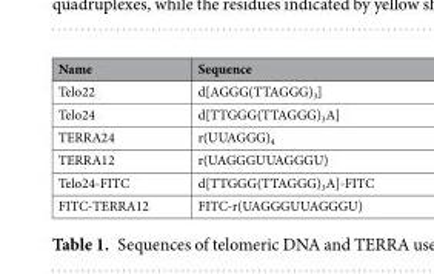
<table><thead><tr><td>Name</td><td>Sequence</td></tr></thead><tbody><tr><td>Telo22</td><td>d[AGGG(TTAGGG)<sub>3</sub>]</td></tr><tr><td>Telo24</td><td>d[TTGGG(TTAGGG)<sub>3</sub>A]</td></tr><tr><td>TERRA24</td><td>r(UUAGGG)<sub>4</sub></td></tr><tr><td>TERRA12</td><td>r(UAGGGUUAGGGU)</td></tr><tr><td>Telo24-FITC</td><td>d[TTGGG(TTAGGG)<sub>3</sub>A]-FITC</td></tr><tr><td>FITC-TERRA12</td><td>FITC-r(UAGGGUUAGGGU)</td></tr></tbody></table>